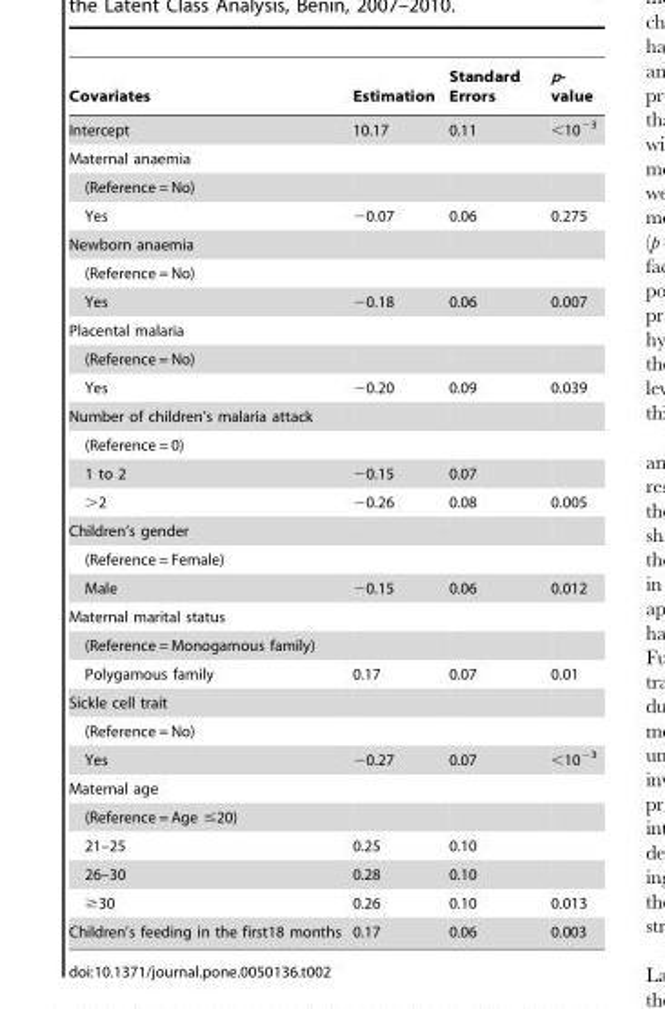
<table><thead><tr><td>Covariates</td><td>Estimation</td><td>Standard Errors</td><td>p- value</td></tr></thead><tbody><tr><td>Intercept</td><td>10.17</td><td>0.11</td><td>&lt;10<sup>−3</sup></td></tr><tr><td colspan="4">Maternal anaemia</td></tr><tr><td colspan="4">(Reference = No)</td></tr><tr><td>Yes</td><td>−0.07</td><td>0.06</td><td>0.275</td></tr><tr><td colspan="4">Newborn anaemia</td></tr><tr><td colspan="4">(Reference = No)</td></tr><tr><td>Yes</td><td>−0.18</td><td>0.06</td><td>0.007</td></tr><tr><td colspan="4">Placental malaria</td></tr><tr><td colspan="4">(Reference = No)</td></tr><tr><td>Yes</td><td>−0.20</td><td>0.09</td><td>0.039</td></tr><tr><td colspan="4">Number of children’s malaria attack</td></tr><tr><td colspan="4">(Reference = 0)</td></tr><tr><td>1 to 2</td><td>−0.15</td><td>0.07</td><td></td></tr><tr><td>&gt;2</td><td>−0.26</td><td>0.08</td><td>0.005</td></tr><tr><td colspan="4">Children’s gender</td></tr><tr><td colspan="4">(Reference = Female)</td></tr><tr><td>Male</td><td>−0.15</td><td>0.06</td><td>0.012</td></tr><tr><td colspan="4">Maternal marital status</td></tr><tr><td colspan="4">(Reference = Monogamous family)</td></tr><tr><td>Polygamous family</td><td>0.17</td><td>0.07</td><td>0.01</td></tr><tr><td colspan="4">Sickle cell trait</td></tr><tr><td colspan="4">(Reference = No)</td></tr><tr><td>Yes</td><td>−0.27</td><td>0.07</td><td>&lt;10<sup>−3</sup></td></tr><tr><td colspan="4">Maternal age</td></tr><tr><td colspan="4">(Reference = Age ≤20)</td></tr><tr><td>21–25</td><td>0.25</td><td>0.10</td><td></td></tr><tr><td>26–30</td><td>0.28</td><td>0.10</td><td></td></tr><tr><td>≥30</td><td>0.26</td><td>0.10</td><td>0.013</td></tr><tr><td>Children’s feeding in the first18 months</td><td>0.17</td><td>0.06</td><td>0.003</td></tr></tbody></table>